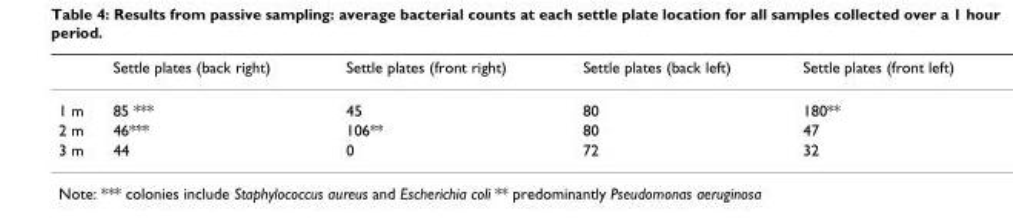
<table><thead><tr><td></td><td>Settle plates (back right)</td><td>Settle plates (front right)</td><td>Settle plates (back left)</td><td>Settle plates (front left)</td></tr></thead><tbody><tr><td>1 m</td><td>85 ***</td><td>45</td><td>80</td><td>180**</td></tr><tr><td>2 m</td><td>46***</td><td>106**</td><td>80</td><td>47</td></tr><tr><td>3 m</td><td>44</td><td>0</td><td>72</td><td>32</td></tr></tbody></table>